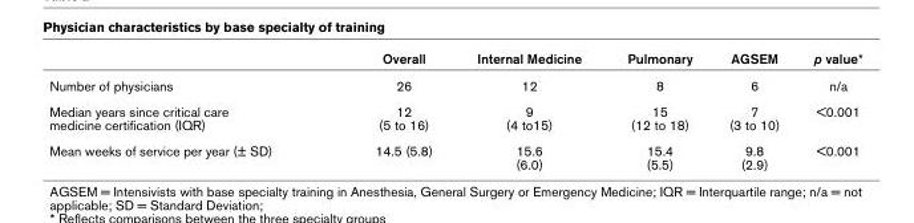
<table><thead><tr><td></td><td>Overall</td><td>Internal Medicine</td><td>Pulmonary</td><td>AGSEM</td><td>p value*</td></tr></thead><tbody><tr><td>Number of physicians</td><td>26</td><td>12</td><td>8</td><td>6</td><td>n/a</td></tr><tr><td>Median years since critical care medicine certification (IQR)</td><td>12 (5 to 16)</td><td>9 (4 to15)</td><td>15 (12 to 18)</td><td>7 (3 to 10)</td><td>&lt;0.001</td></tr><tr><td>Mean weeks of service per year (± SD)</td><td>14.5 (5.8)</td><td>15.6 (6.0)</td><td>15.4 (5.5)</td><td>9.8 (2.9)</td><td>&lt;0.001</td></tr></tbody></table>